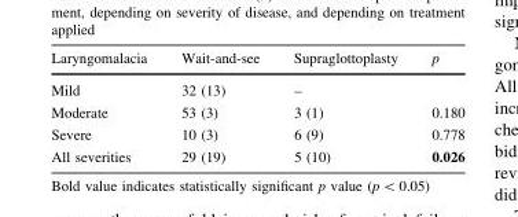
<table><thead><tr><td>Laryngomalacia</td><td>Wait-and-see</td><td>Supraglottoplasty</td><td>p</td></tr></thead><tbody><tr><td>Mild</td><td>32 (13)</td><td>–</td><td></td></tr><tr><td>Moderate</td><td>53 (3)</td><td>3 (1)</td><td>0.180</td></tr><tr><td>Severe</td><td>10 (3)</td><td>6 (9)</td><td>0.778</td></tr><tr><td>All severities</td><td>29 (19)</td><td>5 (10)</td><td>0.026</td></tr></tbody></table>